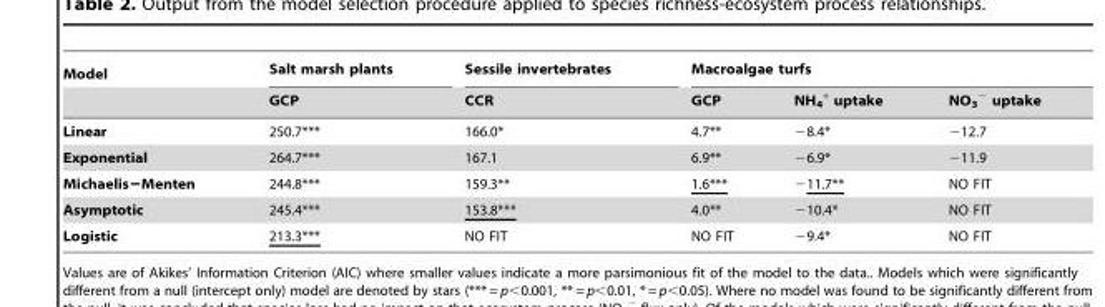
<table><thead><tr><td rowspan="2">Model</td><td rowspan="2">Salt marsh plants GCP</td><td rowspan="2">Sessile invertebrates CCR</td><td colspan="3">Macroalgae turfs</td></tr><tr><td>GCP</td><td>NH<sub>4</sub> <sup>+</sup> uptake</td><td>NO<sub>3</sub> <sup>−</sup> uptake</td></tr></thead><tbody><tr><td>Linear</td><td>250.7***</td><td>166.0*</td><td>4.7**</td><td>−8.4*</td><td>−12.7</td></tr><tr><td>Exponential</td><td>264.7***</td><td>167.1</td><td>6.9**</td><td>−6.9*</td><td>−11.9</td></tr><tr><td>Michaelis−Menten</td><td>244.8***</td><td>159.3**</td><td>1.6***</td><td>−11.7**</td><td>NO FIT</td></tr><tr><td>Asymptotic</td><td>245.4***</td><td>153.8***</td><td>4.0**</td><td>−10.4*</td><td>NO FIT</td></tr><tr><td>Logistic</td><td>213.3***</td><td>NO FIT</td><td>NO FIT</td><td>−9.4*</td><td>NO FIT</td></tr></tbody></table>